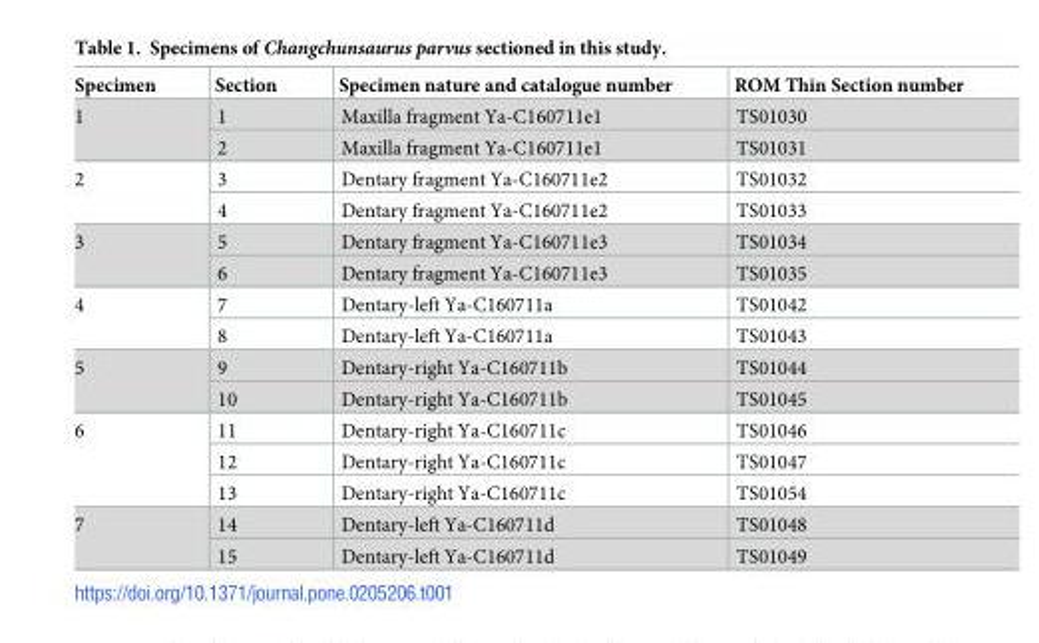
<table><thead><tr><td>Specimen</td><td>Section</td><td>Specimen nature and catalogue number</td><td>ROM Thin Section number</td></tr></thead><tbody><tr><td rowspan="2">1</td><td>1</td><td>Maxilla fragment Ya-C160711e1</td><td>TS01030</td></tr><tr><td>2</td><td>Maxilla fragment Ya-C160711e1</td><td>TS01031</td></tr><tr><td rowspan="2">2</td><td>3</td><td>Dentary fragment Ya-C160711e2</td><td>TS01032</td></tr><tr><td>4</td><td>Dentary fragment Ya-C160711e2</td><td>TS01033</td></tr><tr><td rowspan="2">3</td><td>5</td><td>Dentary fragment Ya-C160711e3</td><td>TS01034</td></tr><tr><td>6</td><td>Dentary fragment Ya-C160711e3</td><td>TS01035</td></tr><tr><td rowspan="2">4</td><td>7</td><td>Dentary-left Ya-C160711a</td><td>TS01042</td></tr><tr><td>8</td><td>Dentary-left Ya-C160711a</td><td>TS01043</td></tr><tr><td rowspan="2">5</td><td>9</td><td>Dentary-right Ya-C160711b</td><td>TS01044</td></tr><tr><td>10</td><td>Dentary-right Ya-C160711b</td><td>TS01045</td></tr><tr><td rowspan="3">6</td><td>11</td><td>Dentary-right Ya-C160711c</td><td>TS01046</td></tr><tr><td>12</td><td>Dentary-right Ya-C160711c</td><td>TS01047</td></tr><tr><td>13</td><td>Dentary-right Ya-C160711c</td><td>TS01054</td></tr><tr><td rowspan="2">7</td><td>14</td><td>Dentary-left Ya-C160711d</td><td>TS01048</td></tr><tr><td>15</td><td>Dentary-left Ya-C160711d</td><td>TS01049</td></tr></tbody></table>